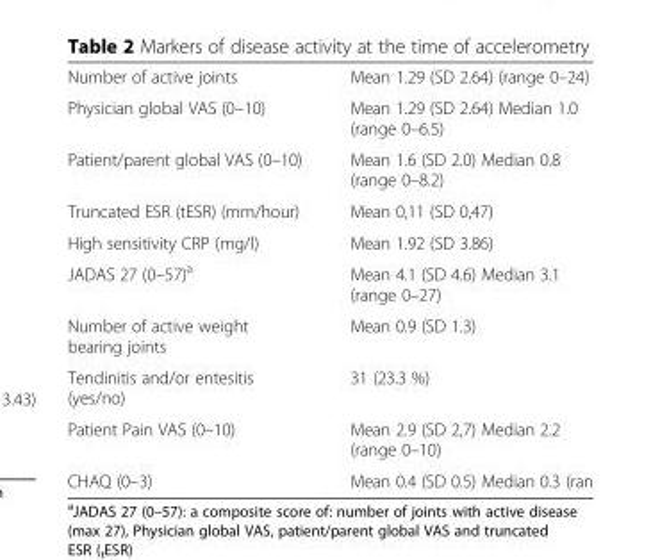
<table><tbody><tr><td>Number of active joints</td><td>Mean 1.29 (SD 2.64) (range 0–24)</td></tr><tr><td>Physician global VAS (0–10)</td><td>Mean 1.29 (SD 2.64) Median 1.0 (range 0–6.5)</td></tr><tr><td>Patient/parent global VAS (0–10)</td><td>Mean 1.6 (SD 2.0) Median 0.8 (range 0–8.2)</td></tr><tr><td>Truncated ESR (tESR) (mm/hour)</td><td>Mean 0,11 (SD 0,47)</td></tr><tr><td>High sensitivity CRP (mg/l)</td><td>Mean 1.92 (SD 3.86)</td></tr><tr><td>JADAS 27 (0–57)<sup>a</sup></td><td>Mean 4.1 (SD 4.6) Median 3.1 (range 0–27)</td></tr><tr><td>Number of active weight bearing joints</td><td>Mean 0.9 (SD 1.3)</td></tr><tr><td>Tendinitis and/or entesitis (yes/no)</td><td>31 (23.3 %)</td></tr><tr><td>Patient Pain VAS (0–10)</td><td>Mean 2.9 (SD 2,7) Median 2.2 (range 0–10)</td></tr><tr><td>CHAQ (0–3)</td><td>Mean 0.4 (SD 0.5) Median 0.3 (ran</td></tr></tbody></table>